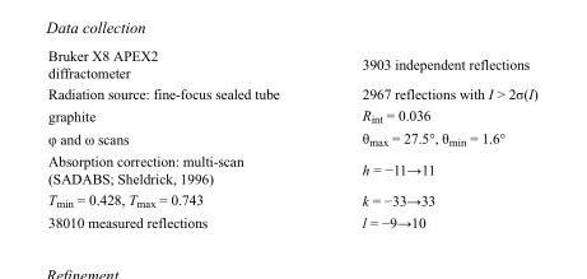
<table><tbody><tr><td>Bruker X8 APEX2 diffractometer</td><td>3903 independent reflections</td></tr><tr><td>Radiation source: fine-focus sealed tube</td><td>2967 reflections with I &gt; 2σ(I)</td></tr><tr><td>graphite</td><td>R<sub>int</sub> = 0.036</td></tr><tr><td>φ and ω scans</td><td>θ<sub>max</sub> = 27.5°, θ<sub>min</sub> = 1.6°</td></tr><tr><td>Absorption correction: multi-scan (SADABS; Sheldrick, 1996)</td><td>h = −11→11</td></tr><tr><td>T<sub>min</sub> = 0.428, T<sub>max</sub> = 0.743</td><td>k = −33→33</td></tr><tr><td>38010 measured reflections</td><td>l = −9→10</td></tr></tbody></table>